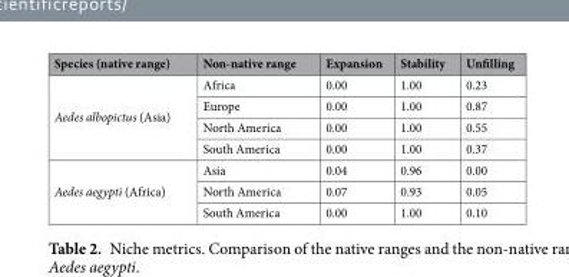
<table><thead><tr><td>Species (native range)</td><td>Non-native range</td><td>Expansion</td><td>Stability</td><td>Unfilling</td></tr></thead><tbody><tr><td rowspan="4">Aedes albopictus (Asia)</td><td>Africa</td><td>0.00</td><td>1.00</td><td>0.23</td></tr><tr><td>Europe</td><td>0.00</td><td>1.00</td><td>0.87</td></tr><tr><td>North America</td><td>0.00</td><td>1.00</td><td>0.55</td></tr><tr><td>South America</td><td>0.00</td><td>1.00</td><td>0.37</td></tr><tr><td rowspan="3">Aedes aegypti (Africa)</td><td>Asia</td><td>0.04</td><td>0.96</td><td>0.00</td></tr><tr><td>North America</td><td>0.07</td><td>0.93</td><td>0.05</td></tr><tr><td>South America</td><td>0.00</td><td>1.00</td><td>0.10</td></tr></tbody></table>